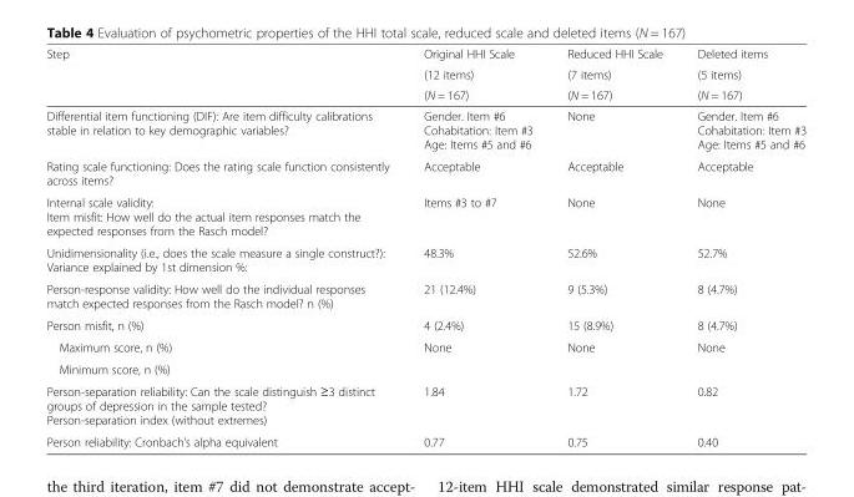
<table><thead><tr><td rowspan="3">Step</td><td rowspan="3">Original HHI Scale (12 items) (N = 167)</td><td rowspan="3">Reduced HHI Scale (7 items) (N = 167)</td><td rowspan="3">Deleted items (5 items) (N = 167)</td></tr><tr></tr><tr></tr></thead><tbody><tr><td>Differential item functioning (DIF): Are item difficulty calibrations stable in relation to key demographic variables?</td><td>Gender. Item #6 Cohabitation: Item #3 Age: Items #5 and #6</td><td>None</td><td>Gender. Item #6 Cohabitation: Item #3 Age: Items #5 and #6</td></tr><tr><td>Rating scale functioning: Does the rating scale function consistently across items?</td><td>Acceptable</td><td>Acceptable</td><td>Acceptable</td></tr><tr><td>Internal scale validity: Item misfit: How well do the actual item responses match the expected responses from the Rasch model?</td><td>Items #3 to #7</td><td>None</td><td>None</td></tr><tr><td>Unidimensionality (i.e., does the scale measure a single construct?): Variance explained by 1st dimension %:</td><td>48.3%</td><td>52.6%</td><td>52.7%</td></tr><tr><td>Person-response validity: How well do the individual responses match expected responses from the Rasch model? n (%)</td><td>21 (12.4%)</td><td>9 (5.3%)</td><td>8 (4.7%)</td></tr><tr><td>Person misfit, n (%)</td><td>4 (2.4%)</td><td>15 (8.9%)</td><td>8 (4.7%)</td></tr><tr><td>Maximum score, n (%)</td><td rowspan="2">None</td><td rowspan="2">None</td><td rowspan="2">None</td></tr><tr><td>Minimum score, n (%)</td></tr><tr><td>Person-separation reliability: Can the scale distinguish ≥3 distinct groups of depression in the sample tested? Person-separation index (without extremes)</td><td>1.84</td><td>1.72</td><td>0.82</td></tr><tr><td>Person reliability: Cronbach’s alpha equivalent</td><td>0.77</td><td>0.75</td><td>0.40</td></tr></tbody></table>